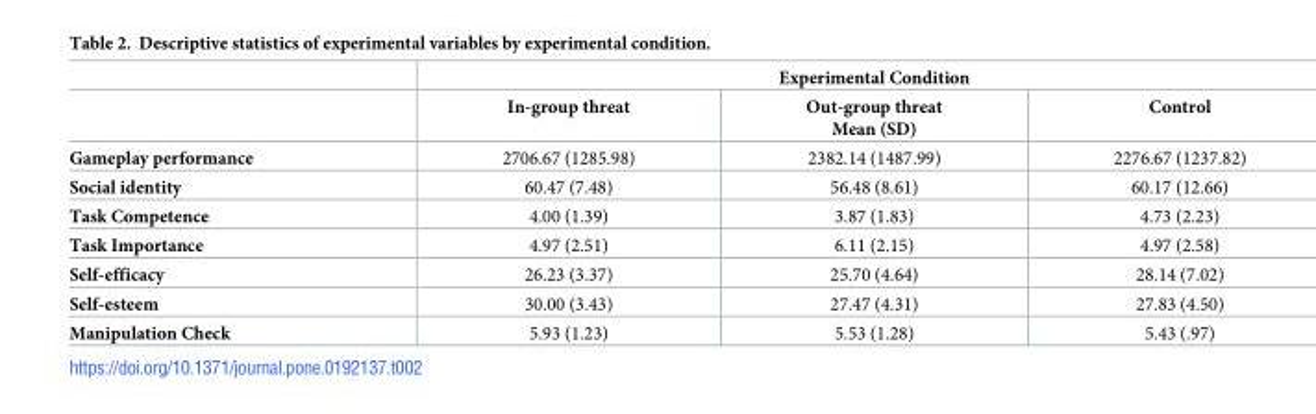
<table><thead><tr><td rowspan="2"></td><td colspan="3">Experimental Condition</td></tr><tr><td>In-group threat</td><td>Out-group threat Mean (SD)</td><td>Control</td></tr></thead><tbody><tr><td>Gameplay performance</td><td>2706.67 (1285.98)</td><td>2382.14 (1487.99)</td><td>2276.67 (1237.82)</td></tr><tr><td>Social identity</td><td>60.47 (7.48)</td><td>56.48 (8.61)</td><td>60.17 (12.66)</td></tr><tr><td>Task Competence</td><td>4.00 (1.39)</td><td>3.87 (1.83)</td><td>4.73 (2.23)</td></tr><tr><td>Task Importance</td><td>4.97 (2.51)</td><td>6.11 (2.15)</td><td>4.97 (2.58)</td></tr><tr><td>Self-efficacy</td><td>26.23 (3.37)</td><td>25.70 (4.64)</td><td>28.14 (7.02)</td></tr><tr><td>Self-esteem</td><td>30.00 (3.43)</td><td>27.47 (4.31)</td><td>27.83 (4.50)</td></tr><tr><td>Manipulation Check</td><td>5.93 (1.23)</td><td>5.53 (1.28)</td><td>5.43 (.97)</td></tr></tbody></table>